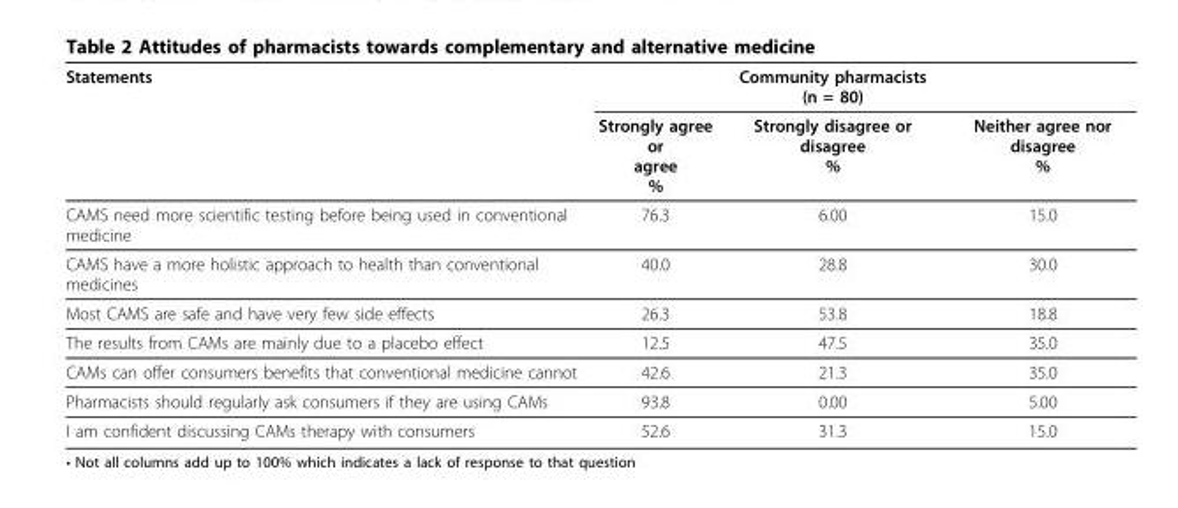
<table><thead><tr><td rowspan="2">Statements</td><td rowspan="2">Strongly agree or agree %</td><td rowspan="2">Community pharmacists (n = 80) Strongly disagree or disagree %</td><td rowspan="2">Neither agree nor disagree %</td></tr><tr></tr></thead><tbody><tr><td>CAMS need more scientific testing before being used in conventional medicine</td><td>76.3</td><td>6.00</td><td>15.0</td></tr><tr><td>CAMS have a more holistic approach to health than conventional medicines</td><td>40.0</td><td>28.8</td><td>30.0</td></tr><tr><td>Most CAMS are safe and have very few side effects</td><td>26.3</td><td>53.8</td><td>18.8</td></tr><tr><td>The results from CAMs are mainly due to a placebo effect</td><td>12.5</td><td>47.5</td><td>35.0</td></tr><tr><td>CAMs can offer consumers benefits that conventional medicine cannot</td><td>42.6</td><td>21.3</td><td>35.0</td></tr><tr><td>Pharmacists should regularly ask consumers if they are using CAMs</td><td>93.8</td><td>0.00</td><td>5.00</td></tr><tr><td>I am confident discussing CAMs therapy with consumers</td><td>52.6</td><td>31.3</td><td>15.0</td></tr></tbody></table>